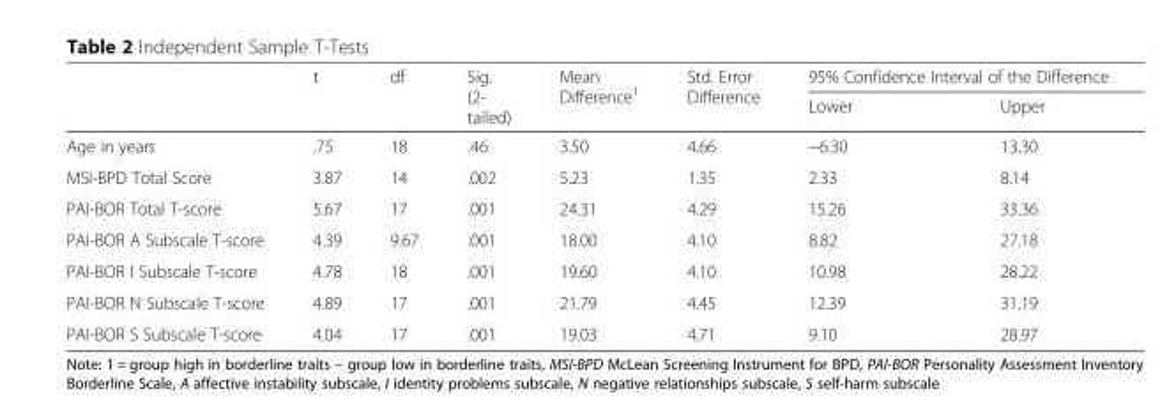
<table><thead><tr><td rowspan="2"></td><td rowspan="2">t</td><td rowspan="2">df</td><td rowspan="2">Sig. (2- tailed)</td><td rowspan="2">Mean Difference<sup>1</sup></td><td rowspan="2">Std. Error Difference</td><td colspan="2">95% Confidence Interval of the Difference</td></tr><tr><td>Lower</td><td>Upper</td></tr></thead><tbody><tr><td>Age in years</td><td>.75</td><td>18</td><td>.46</td><td>3.50</td><td>4.66</td><td>−6.30</td><td>13.30</td></tr><tr><td>MSI-BPD Total Score</td><td>3.87</td><td>14</td><td>.002</td><td>5.23</td><td>1.35</td><td>2.33</td><td>8.14</td></tr><tr><td>PAI-BOR Total T-score</td><td>5.67</td><td>17</td><td>.001</td><td>24.31</td><td>4.29</td><td>15.26</td><td>33.36</td></tr><tr><td>PAI-BOR A Subscale T-score</td><td>4.39</td><td>9.67</td><td>.001</td><td>18.00</td><td>4.10</td><td>8.82</td><td>27.18</td></tr><tr><td>PAI-BOR I Subscale T-score</td><td>4.78</td><td>18</td><td>.001</td><td>19.60</td><td>4.10</td><td>10.98</td><td>28.22</td></tr><tr><td>PAI-BOR N Subscale T-score</td><td>4.89</td><td>17</td><td>.001</td><td>21.79</td><td>4.45</td><td>12.39</td><td>31.19</td></tr><tr><td>PAI-BOR S Subscale T-score</td><td>4.04</td><td>17</td><td>.001</td><td>19.03</td><td>4.71</td><td>9.10</td><td>28.97</td></tr></tbody></table>